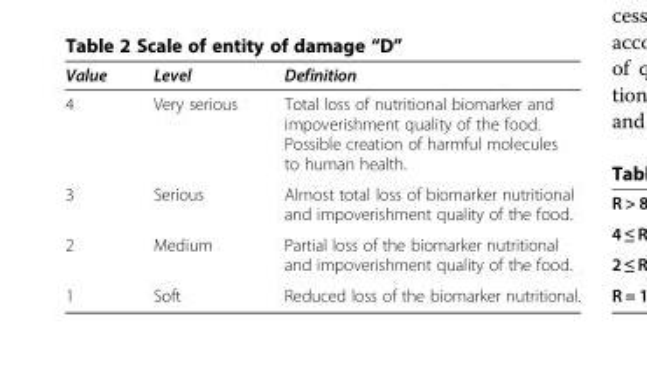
<table><thead><tr><td>Value</td><td>Level</td><td>Definition</td></tr></thead><tbody><tr><td>4</td><td>Very serious</td><td>Total loss of nutritional biomarker and impoverishment quality of the food. Possible creation of harmful molecules to human health.</td></tr><tr><td>3</td><td>Serious</td><td>Almost total loss of biomarker nutritional and impoverishment quality of the food.</td></tr><tr><td>2</td><td>Medium</td><td>Partial loss of the biomarker nutritional and impoverishment quality of the food.</td></tr><tr><td>1</td><td>Soft</td><td>Reduced loss of the biomarker nutritional.</td></tr></tbody></table>